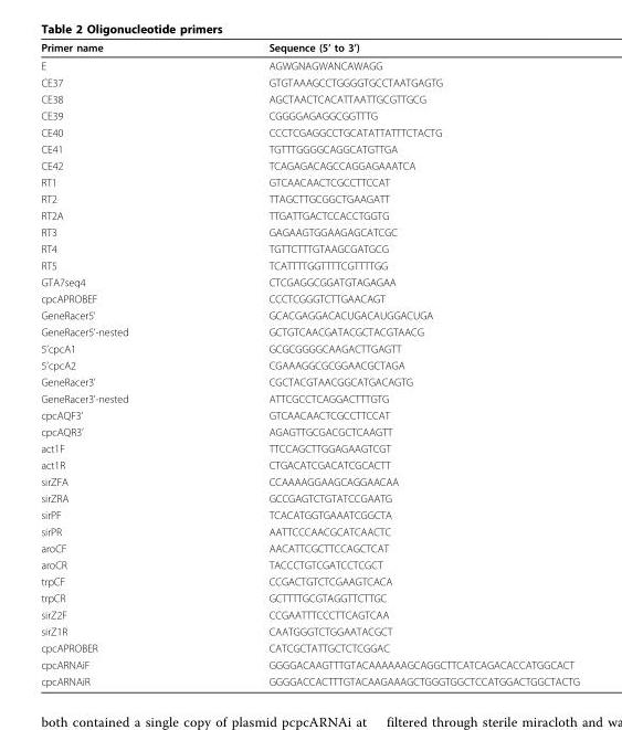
<table><thead><tr><td>Primer name</td><td>Sequence (5’ to 3’)</td></tr></thead><tbody><tr><td>E</td><td>AGWGNAGWANCAWAGG</td></tr><tr><td>CE37</td><td>GTGTAAAGCCTGGGGTGCCTAATGAGTG</td></tr><tr><td>CE38</td><td>AGCTAACTCACATTAATTGCGTTGCG</td></tr><tr><td>CE39</td><td>CGGGGAGAGGCGGTTTG</td></tr><tr><td>CE40</td><td>CCCTCGAGGCCTGCATATTATTTCTACTG</td></tr><tr><td>CE41</td><td>TGTTTGGGGCAGGCATGTTGA</td></tr><tr><td>CE42</td><td>TCAGAGACAGCCAGGAGAAATCA</td></tr><tr><td>RT1</td><td>GTCAACAACTCGCCTTCCAT</td></tr><tr><td>RT2</td><td>TTAGCTTGCGGCTGAAGATT</td></tr><tr><td>RT2A</td><td>TTGATTGACTCCACCTGGTG</td></tr><tr><td>RT3</td><td>GAGAAGTGGAAGAGCATCGC</td></tr><tr><td>RT4</td><td>TGTTCTTTGTAAGCGATGCG</td></tr><tr><td>RT5</td><td>TCATTTTGGTTTTCGTTTTGG</td></tr><tr><td>GTA7seq4</td><td>CTCGAGGCGGATGTAGAGAA</td></tr><tr><td>cpcAPROBEF</td><td>CCCTCGGGTCTTGAACAGT</td></tr><tr><td>GeneRacer5’</td><td>GCACGAGGACACUGACAUGGACUGA</td></tr><tr><td>GeneRacer5’-nested</td><td>GCTGTCAACGATACGCTACGTAACG</td></tr><tr><td>5’cpcA1</td><td>GCGCGGGGCAAGACTTGAGTT</td></tr><tr><td>5’cpcA2</td><td>CGAAAGGCGCGGAACGCTAGA</td></tr><tr><td>GeneRacer3’</td><td>CGCTACGTAACGGCATGACAGTG</td></tr><tr><td>GeneRacer3’-nested</td><td>ATTCGCCTCAGGACTTTGTG</td></tr><tr><td>cpcAQF3’</td><td>GTCAACAACTCGCCTTCCAT</td></tr><tr><td>cpcAQR3’</td><td>AGAGTTGCGACGCTCAAGTT</td></tr><tr><td>act1F</td><td>TTCCAGCTTGGAGAAGTCGT</td></tr><tr><td>act1R</td><td>CTGACATCGACATCGCACTT</td></tr><tr><td>sirZFA</td><td>CCAAAAGGAAGCAGGAACAA</td></tr><tr><td>sirZRA</td><td>GCCGAGTCTGTATCCGAATG</td></tr><tr><td>sirPF</td><td>TCACATGGTGAAATCGGCTA</td></tr><tr><td>sirPR</td><td>AATTCCCAACGCATCAACTC</td></tr><tr><td>aroCF</td><td>AACATTCGCTTCCAGCTCAT</td></tr><tr><td>aroCR</td><td>TACCCTGTCGATCCTCGCT</td></tr><tr><td>trpCF</td><td>CCGACTGTCTCGAAGTCACA</td></tr><tr><td>trpCR</td><td>GCTTTTGCGTAGGTTCTTGC</td></tr><tr><td>sirZ2F</td><td>CCGAATTTCCCTTCAGTCAA</td></tr><tr><td>sirZ1R</td><td>CAATGGGTCTGGAATACGCT</td></tr><tr><td>cpcAPROBER</td><td>CATCGCTATTGCTCTCGGAC</td></tr><tr><td>cpcARNAiF</td><td>GGGGACAAGTTTGTACAAAAAAGCAGGCTTCATCAGACACCATGGCACT</td></tr><tr><td>cpcARNAiR</td><td>GGGGACCACTTTGTACAAGAAAGCTGGGTGGCTCCATGGACTGGCTACTG</td></tr></tbody></table>